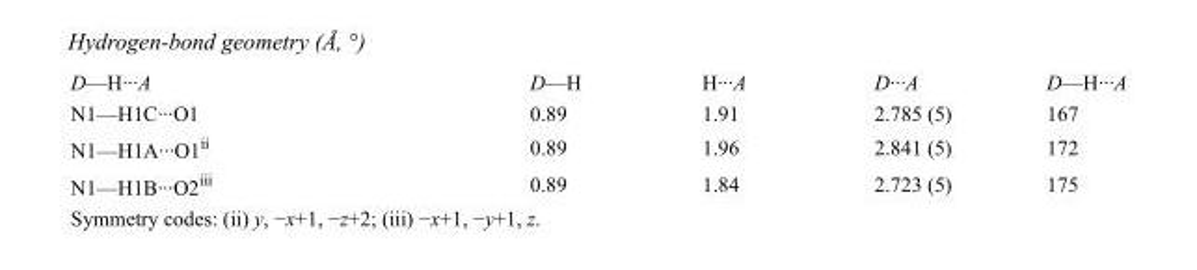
<table><tbody><tr><td>D—H···A</td><td>D—H</td><td>H···A</td><td>D···A</td><td>D—H···A</td></tr><tr><td>N1—H1C···O1</td><td>0.89</td><td>1.91</td><td>2.785 (5)</td><td>167</td></tr><tr><td>N1—H1A···O1<sup>ii</sup></td><td>0.89</td><td>1.96</td><td>2.841 (5)</td><td>172</td></tr><tr><td>N1—H1B···O2<sup>iii</sup></td><td>0.89</td><td>1.84</td><td>2.723 (5)</td><td>175</td></tr></tbody></table>